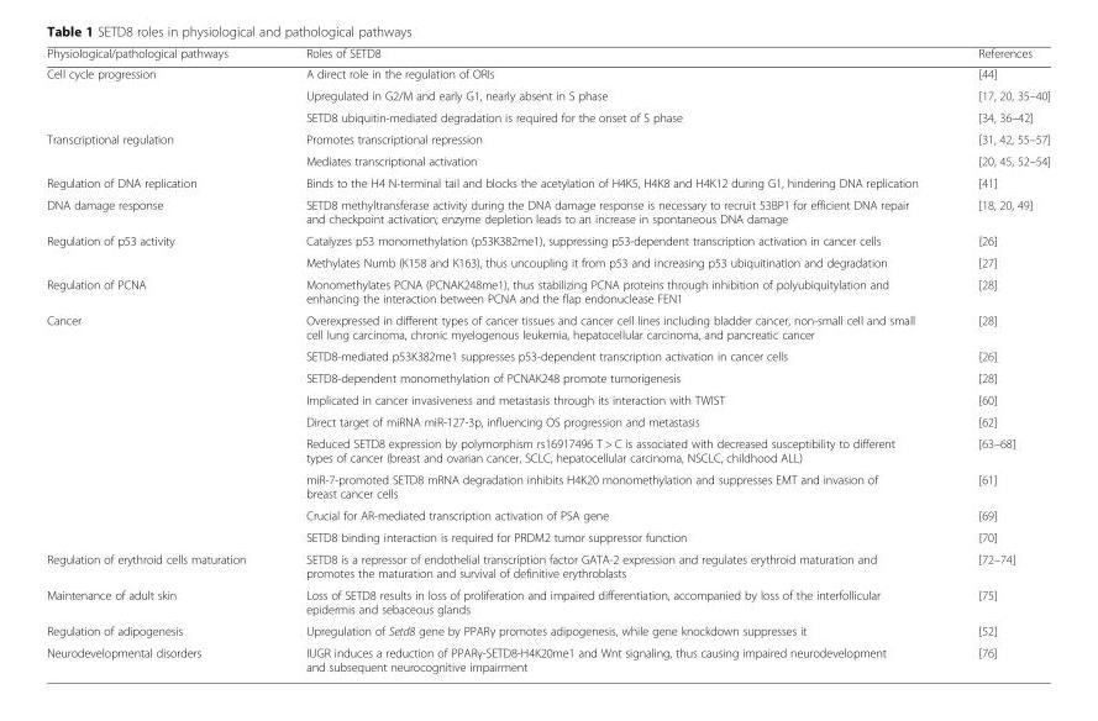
<table><thead><tr><td>Physiological/pathological pathways</td><td>Roles of SETD8</td><td>References</td></tr></thead><tbody><tr><td rowspan="3">Cell cycle progression</td><td>A direct role in the regulation of ORIs</td><td>[44]</td></tr><tr><td>Upregulated in G2/M and early G1, nearly absent in S phase</td><td>[17, 20, 35–40]</td></tr><tr><td>SETD8 ubiquitin-mediated degradation is required for the onset of S phase</td><td>[34, 36–42]</td></tr><tr><td rowspan="2">Transcriptional regulation</td><td>Promotes transcriptional repression</td><td>[31, 42, 55–57]</td></tr><tr><td>Mediates transcriptional activation</td><td>[20, 45, 52–54]</td></tr><tr><td>Regulation of DNA replication</td><td>Binds to the H4 N-terminal tail and blocks the acetylation of H4K5, H4K8 and H4K12 during G1, hindering DNA replication</td><td>[41]</td></tr><tr><td>DNA damage response</td><td>SETD8 methyltransferase activity during the DNA damage response is necessary to recruit 53BP1 for efficient DNA repair and checkpoint activation; enzyme depletion leads to an increase in spontaneous DNA damage</td><td>[18, 20, 49]</td></tr><tr><td rowspan="2">Regulation of p53 activity</td><td>Catalyzes p53 monomethylation (p53K382me1), suppressing p53-dependent transcription activation in cancer cells</td><td>[26]</td></tr><tr><td>Methylates Numb (K158 and K163), thus uncoupling it from p53 and increasing p53 ubiquitination and degradation</td><td>[27]</td></tr><tr><td>Regulation of PCNA</td><td>Monomethylates PCNA (PCNAK248me1), thus stabilizing PCNA proteins through inhibition of polyubiquitylation and enhancing the interaction between PCNA and the flap endonuclease FEN1</td><td>[28]</td></tr><tr><td rowspan="9">Cancer</td><td>Overexpressed in different types of cancer tissues and cancer cell lines including bladder cancer, non-small cell and small cell lung carcinoma, chronic myelogenous leukemia, hepatocellular carcinoma, and pancreatic cancer</td><td>[28]</td></tr><tr><td>SETD8-mediated p53K382me1 suppresses p53-dependent transcription activation in cancer cells</td><td>[26]</td></tr><tr><td>SETD8-dependent monomethylation of PCNAK248 promote tumorigenesis</td><td>[28]</td></tr><tr><td>Implicated in cancer invasiveness and metastasis through its interaction with TWIST</td><td>[60]</td></tr><tr><td>Direct target of miRNA miR-127-3p, influencing OS progression and metastasis</td><td>[62]</td></tr><tr><td>Reduced SETD8 expression by polymorphism rs16917496 T &gt; C is associated with decreased susceptibility to different types of cancer (breast and ovarian cancer, SCLC, hepatocellular carcinoma, NSCLC, childhood ALL)</td><td>[63–68]</td></tr><tr><td>miR-7-promoted SETD8 mRNA degradation inhibits H4K20 monomethylation and suppresses EMT and invasion of breast cancer cells</td><td>[61]</td></tr><tr><td>Crucial for AR-mediated transcription activation of PSA gene</td><td>[69]</td></tr><tr><td>SETD8 binding interaction is required for PRDM2 tumor suppressor function</td><td>[70]</td></tr><tr><td>Regulation of erythroid cells maturation</td><td>SETD8 is a repressor of endothelial transcription factor GATA-2 expression and regulates erythroid maturation and promotes the maturation and survival of definitive erythroblasts</td><td>[72–74]</td></tr><tr><td>Maintenance of adult skin</td><td>Loss of SETD8 results in loss of proliferation and impaired differentiation, accompanied by loss of the interfollicular epidermis and sebaceous glands</td><td>[75]</td></tr><tr><td>Regulation of adipogenesis</td><td>Upregulation of Setd8 gene by PPARγ promotes adipogenesis, while gene knockdown suppresses it</td><td>[52]</td></tr><tr><td>Neurodevelopmental disorders</td><td>IUGR induces a reduction of PPARγ-SETD8-H4K20me1 and Wnt signaling, thus causing impaired neurodevelopment and subsequent neurocognitive impairment</td><td>[76]</td></tr></tbody></table>